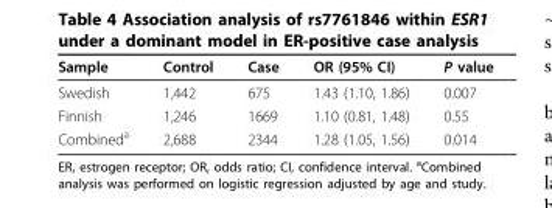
<table><thead><tr><td>Sample</td><td>Control</td><td>Case</td><td>OR (95% CI)</td><td>P value</td></tr></thead><tbody><tr><td>Swedish</td><td>1,442</td><td>675</td><td>1.43 (1.10, 1.86)</td><td>0.007</td></tr><tr><td>Finnish</td><td>1,246</td><td>1669</td><td>1.10 (0.81, 1.48)</td><td>0.55</td></tr><tr><td>Combined<sup>a</sup></td><td>2,688</td><td>2344</td><td>1.28 (1.05, 1.56)</td><td>0.014</td></tr></tbody></table>